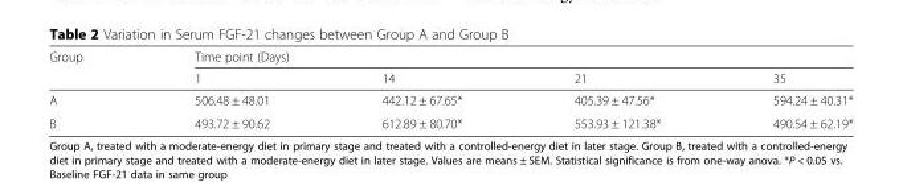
<table><thead><tr><td rowspan="2">Group</td><td colspan="4">Time point (Days)</td></tr><tr><td>1</td><td>14</td><td>21</td><td>35</td></tr></thead><tbody><tr><td>A</td><td>506.48 ± 48.01</td><td>442.12 ± 67.65*</td><td>405.39 ± 47.56*</td><td>594.24 ± 40.31*</td></tr><tr><td>B</td><td>493.72 ± 90.62</td><td>612.89 ± 80.70*</td><td>553.93 ± 121.38*</td><td>490.54 ± 62.19*</td></tr></tbody></table>